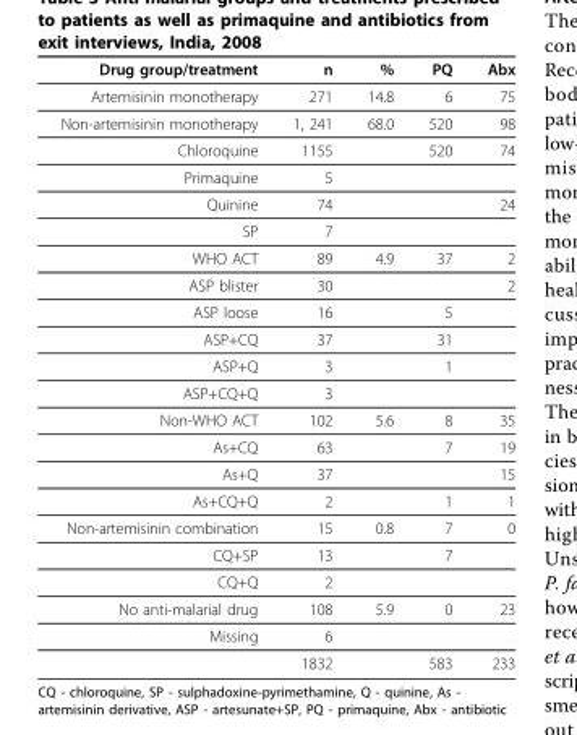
<table><thead><tr><td>Drug group/treatment</td><td>n</td><td>%</td><td>PQ</td><td>Abx</td></tr></thead><tbody><tr><td>Artemisinin monotherapy</td><td>271</td><td>14.8</td><td>6</td><td>75</td></tr><tr><td>Non-artemisinin monotherapy</td><td>1, 241</td><td>68.0</td><td>520</td><td>98</td></tr><tr><td>Chloroquine</td><td>1155</td><td></td><td>520</td><td>74</td></tr><tr><td>Primaquine</td><td>5</td><td></td><td></td><td></td></tr><tr><td>Quinine</td><td>74</td><td></td><td></td><td>24</td></tr><tr><td>SP</td><td>7</td><td></td><td></td><td></td></tr><tr><td>WHO ACT</td><td>89</td><td>4.9</td><td>37</td><td>2</td></tr><tr><td>ASP blister</td><td>30</td><td></td><td></td><td>2</td></tr><tr><td>ASP loose</td><td>16</td><td></td><td>5</td><td></td></tr><tr><td>ASP+CQ</td><td>37</td><td></td><td>31</td><td></td></tr><tr><td>ASP+Q</td><td>3</td><td></td><td>1</td><td></td></tr><tr><td>ASP+CQ+Q</td><td>3</td><td></td><td></td><td></td></tr><tr><td>Non-WHO ACT</td><td>102</td><td>5.6</td><td>8</td><td>35</td></tr><tr><td>As+CQ</td><td>63</td><td></td><td>7</td><td>19</td></tr><tr><td>As+Q</td><td>37</td><td></td><td></td><td>15</td></tr><tr><td>As+CQ+Q</td><td>2</td><td></td><td>1</td><td>1</td></tr><tr><td>Non-artemisinin combination</td><td>15</td><td>0.8</td><td>7</td><td>0</td></tr><tr><td>CQ+SP</td><td>13</td><td></td><td>7</td><td></td></tr><tr><td>CQ+Q</td><td>2</td><td></td><td></td><td></td></tr><tr><td>No anti-malarial drug</td><td>108</td><td>5.9</td><td>0</td><td>23</td></tr><tr><td rowspan="2">Missing</td><td>6</td><td></td><td></td><td></td></tr><tr><td>1832</td><td></td><td>583</td><td>233</td></tr></tbody></table>